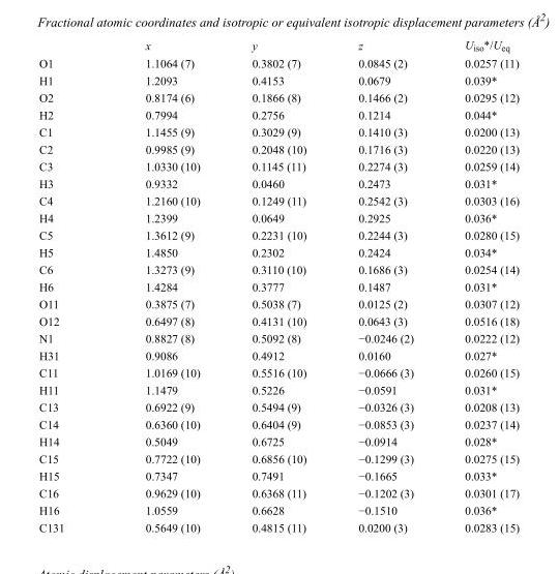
<table><thead><tr><td></td><td>x</td><td>y</td><td>z</td><td>U<sub>iso</sub>*/U<sub>eq</sub></td></tr></thead><tbody><tr><td>O1</td><td>1.1064 (7)</td><td>0.3802 (7)</td><td>0.0845 (2)</td><td>0.0257 (11)</td></tr><tr><td>H1</td><td>1.2093</td><td>0.4153</td><td>0.0679</td><td>0.039*</td></tr><tr><td>O2</td><td>0.8174 (6)</td><td>0.1866 (8)</td><td>0.1466 (2)</td><td>0.0295 (12)</td></tr><tr><td>H2</td><td>0.7994</td><td>0.2756</td><td>0.1214</td><td>0.044*</td></tr><tr><td>C1</td><td>1.1455 (9)</td><td>0.3029 (9)</td><td>0.1410 (3)</td><td>0.0200 (13)</td></tr><tr><td>C2</td><td>0.9985 (9)</td><td>0.2048 (10)</td><td>0.1716 (3)</td><td>0.0220 (13)</td></tr><tr><td>C3</td><td>1.0330 (10)</td><td>0.1145 (11)</td><td>0.2274 (3)</td><td>0.0259 (14)</td></tr><tr><td>H3</td><td>0.9332</td><td>0.0460</td><td>0.2473</td><td>0.031*</td></tr><tr><td>C4</td><td>1.2160 (10)</td><td>0.1249 (11)</td><td>0.2542 (3)</td><td>0.0303 (16)</td></tr><tr><td>H4</td><td>1.2399</td><td>0.0649</td><td>0.2925</td><td>0.036*</td></tr><tr><td>C5</td><td>1.3612 (9)</td><td>0.2231 (10)</td><td>0.2244 (3)</td><td>0.0280 (15)</td></tr><tr><td>H5</td><td>1.4850</td><td>0.2302</td><td>0.2424</td><td>0.034*</td></tr><tr><td>C6</td><td>1.3273 (9)</td><td>0.3110 (10)</td><td>0.1686 (3)</td><td>0.0254 (14)</td></tr><tr><td>H6</td><td>1.4284</td><td>0.3777</td><td>0.1487</td><td>0.031*</td></tr><tr><td>O11</td><td>0.3875 (7)</td><td>0.5038 (7)</td><td>0.0125 (2)</td><td>0.0307 (12)</td></tr><tr><td>O12</td><td>0.6497 (8)</td><td>0.4131 (10)</td><td>0.0643 (3)</td><td>0.0516 (18)</td></tr><tr><td>N1</td><td>0.8827 (8)</td><td>0.5092 (8)</td><td>−0.0246 (2)</td><td>0.0222 (12)</td></tr><tr><td>H31</td><td>0.9086</td><td>0.4912</td><td>0.0160</td><td>0.027*</td></tr><tr><td>C11</td><td>1.0169 (10)</td><td>0.5516 (10)</td><td>−0.0666 (3)</td><td>0.0260 (15)</td></tr><tr><td>H11</td><td>1.1479</td><td>0.5226</td><td>−0.0591</td><td>0.031*</td></tr><tr><td>C13</td><td>0.6922 (9)</td><td>0.5494 (9)</td><td>−0.0326 (3)</td><td>0.0208 (13)</td></tr><tr><td>C14</td><td>0.6360 (10)</td><td>0.6404 (9)</td><td>−0.0853 (3)</td><td>0.0237 (14)</td></tr><tr><td>H14</td><td>0.5049</td><td>0.6725</td><td>−0.0914</td><td>0.028*</td></tr><tr><td>C15</td><td>0.7722 (10)</td><td>0.6856 (10)</td><td>−0.1299 (3)</td><td>0.0275 (15)</td></tr><tr><td>H15</td><td>0.7347</td><td>0.7491</td><td>−0.1665</td><td>0.033*</td></tr><tr><td>C16</td><td>0.9629 (10)</td><td>0.6368 (11)</td><td>−0.1202 (3)</td><td>0.0301 (17)</td></tr><tr><td>H16</td><td>1.0559</td><td>0.6628</td><td>−0.1510</td><td>0.036*</td></tr><tr><td>C131</td><td>0.5649 (10)</td><td>0.4815 (11)</td><td>0.0200 (3)</td><td>0.0283 (15)</td></tr></tbody></table>